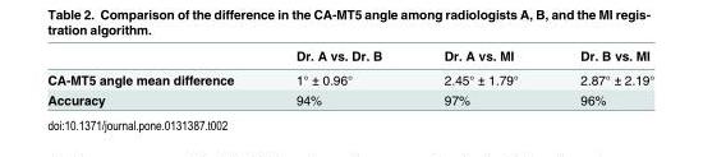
<table><thead><tr><td></td><td>Dr. A vs. Dr. B</td><td>Dr. A vs. MI</td><td>Dr. B vs. MI</td></tr></thead><tbody><tr><td>CA-MT5 angle mean difference</td><td>1° ± 0.96°</td><td>2.45° ± 1.79°</td><td>2.87° ± 2.19°</td></tr><tr><td>Accuracy</td><td>94%</td><td>97%</td><td>96%</td></tr></tbody></table>